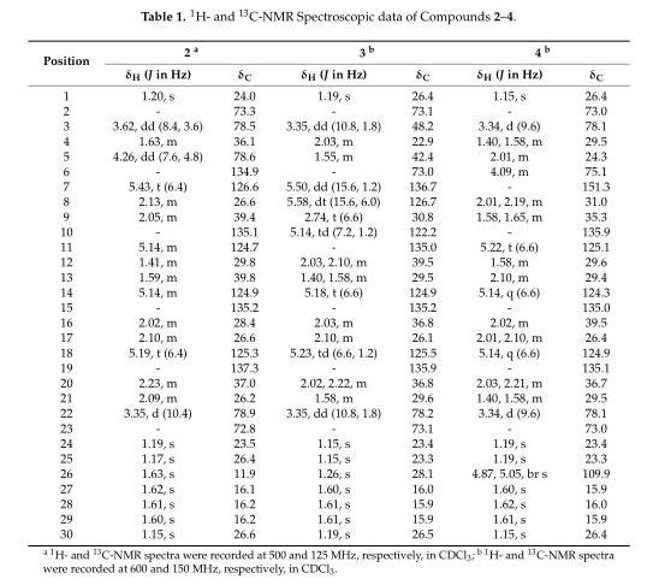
<table><thead><tr><td rowspan="2">Position</td><td colspan="2">2 <sup>a</sup></td><td colspan="2">3 <sup>b</sup></td><td colspan="2">4 <sup>b</sup></td></tr><tr><td>δ<sub>H</sub> (J in Hz)</td><td>δ<sub>C</sub></td><td>δ<sub>H</sub> (J in Hz)</td><td>δ<sub>C</sub></td><td>δ<sub>H</sub> (J in Hz)</td><td>δ<sub>C</sub></td></tr></thead><tbody><tr><td>1</td><td>1.20, s</td><td>24.0</td><td>1.19, s</td><td>26.4</td><td>1.15, s</td><td>26.4</td></tr><tr><td>2</td><td>-</td><td>73.3</td><td>-</td><td>73.1</td><td>-</td><td>73.0</td></tr><tr><td>3</td><td>3.62, dd (8.4, 3.6)</td><td>78.5</td><td>3.35, dd (10.8, 1.8)</td><td>48.2</td><td>3.34, d (9.6)</td><td>78.1</td></tr><tr><td>4</td><td>1.63, m</td><td>36.1</td><td>2.03, m</td><td>22.9</td><td>1.40, 1.58, m</td><td>29.5</td></tr><tr><td>5</td><td>4.26, dd (7.6, 4.8)</td><td>78.6</td><td>1.55, m</td><td>42.4</td><td>2.01, m</td><td>24.3</td></tr><tr><td>6</td><td>-</td><td>134.9</td><td>-</td><td>73.0</td><td>4.09, m</td><td>75.1</td></tr><tr><td>7</td><td>5.43, t (6.4)</td><td>126.6</td><td>5.50, dd (15.6, 1.2)</td><td>136.7</td><td>-</td><td>151.3</td></tr><tr><td>8</td><td>2.13, m</td><td>26.6</td><td>5.58, dt (15.6, 6.0)</td><td>126.7</td><td>2.01, 2.19, m</td><td>31.0</td></tr><tr><td>9</td><td>2.05, m</td><td>39.4</td><td>2.74, t (6.6)</td><td>30.8</td><td>1.58, 1.65, m</td><td>35.3</td></tr><tr><td>10</td><td>-</td><td>135.1</td><td>5.14, td (7.2, 1.2)</td><td>122.2</td><td>-</td><td>135.9</td></tr><tr><td>11</td><td>5.14, m</td><td>124.7</td><td>-</td><td>135.0</td><td>5.22, t (6.6)</td><td>125.1</td></tr><tr><td>12</td><td>1.41, m</td><td>29.8</td><td>2.03, 2.10, m</td><td>39.5</td><td>1.58, m</td><td>29.6</td></tr><tr><td>13</td><td>1.59, m</td><td>39.8</td><td>1.40, 1.58, m</td><td>29.5</td><td>2.10, m</td><td>29.4</td></tr><tr><td>14</td><td>5.14, m</td><td>124.9</td><td>5.18, t (6.6)</td><td>124.9</td><td>5.14, q (6.6)</td><td>124.3</td></tr><tr><td>15</td><td>-</td><td>135.2</td><td>-</td><td>135.2</td><td>-</td><td>135.0</td></tr><tr><td>16</td><td>2.02, m</td><td>28.4</td><td>2.03, m</td><td>36.8</td><td>2.02, m</td><td>39.5</td></tr><tr><td>17</td><td>2.10, m</td><td>26.6</td><td>2.10, m</td><td>26.1</td><td>2.01, 2.10, m</td><td>26.4</td></tr><tr><td>18</td><td>5.19, t (6.4)</td><td>125.3</td><td>5.23, td (6.6, 1.2)</td><td>125.5</td><td>5.14, q (6.6)</td><td>124.9</td></tr><tr><td>19</td><td>-</td><td>137.3</td><td>-</td><td>135.9</td><td>-</td><td>135.1</td></tr><tr><td>20</td><td>2.23, m</td><td>37.0</td><td>2.02, 2.22, m</td><td>36.8</td><td>2.03, 2.21, m</td><td>36.7</td></tr><tr><td>21</td><td>2.09, m</td><td>26.2</td><td>1.58, m</td><td>29.6</td><td>1.40, 1.58, m</td><td>29.5</td></tr><tr><td>22</td><td>3.35, d (10.4)</td><td>78.9</td><td>3.35, dd (10.8, 1.8)</td><td>78.2</td><td>3.34, d (9.6)</td><td>78.1</td></tr><tr><td>23</td><td>-</td><td>72.8</td><td>-</td><td>73.1</td><td>-</td><td>73.0</td></tr><tr><td>24</td><td>1.19, s</td><td>23.5</td><td>1.15, s</td><td>23.4</td><td>1.19, s</td><td>23.4</td></tr><tr><td>25</td><td>1.17, s</td><td>26.4</td><td>1.15, s</td><td>23.3</td><td>1.19, s</td><td>23.3</td></tr><tr><td>26</td><td>1.63, s</td><td>11.9</td><td>1.26, s</td><td>28.1</td><td>4.87, 5.05, br s</td><td>109.9</td></tr><tr><td>27</td><td>1.62, s</td><td>16.1</td><td>1.60, s</td><td>16.0</td><td>1.60, s</td><td>15.9</td></tr><tr><td>28</td><td>1.61, s</td><td>16.2</td><td>1.61, s</td><td>15.9</td><td>1.62, s</td><td>16.0</td></tr><tr><td>29</td><td>1.60, s</td><td>16.2</td><td>1.61, s</td><td>15.9</td><td>1.61, s</td><td>15.9</td></tr><tr><td>30</td><td>1.15, s</td><td>26.6</td><td>1.19, s</td><td>26.5</td><td>1.15, s</td><td>26.4</td></tr></tbody></table>